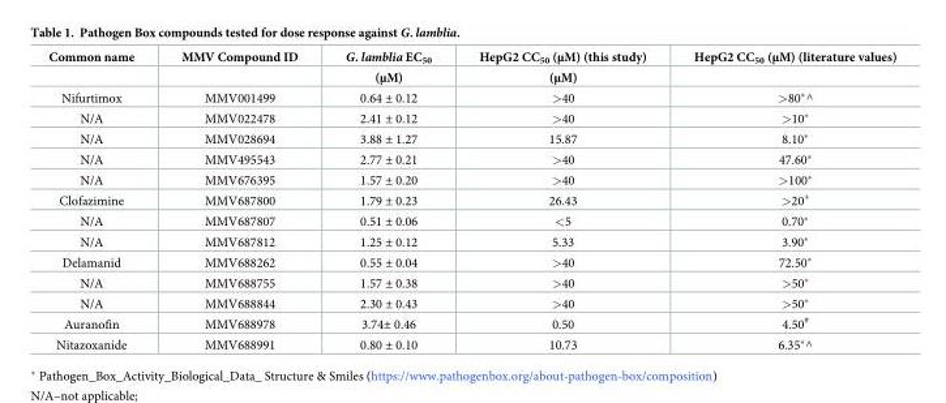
<table><thead><tr><td rowspan="2">Common name</td><td rowspan="2">MMV Compound ID</td><td rowspan="2">G. lamblia EC<sub>50</sub> (μM)</td><td rowspan="2">HepG2 CC<sub>50</sub> (μM) (this study) (μM)</td><td rowspan="2">HepG2 CC<sub>50</sub> (μM) (literature values)</td></tr><tr></tr></thead><tbody><tr><td>Nifurtimox</td><td>MMV001499</td><td>0.64 ± 0.12</td><td>&gt;40</td><td>&gt;80*^</td></tr><tr><td>N/A</td><td>MMV022478</td><td>2.41 ± 0.12</td><td>&gt;40</td><td>&gt;10*</td></tr><tr><td>N/A</td><td>MMV028694</td><td>3.88 ± 1.27</td><td>15.87</td><td>8.10*</td></tr><tr><td>N/A</td><td>MMV495543</td><td>2.77 ± 0.21</td><td>&gt;40</td><td>47.60*</td></tr><tr><td>N/A</td><td>MMV676395</td><td>1.57 ± 0.20</td><td>&gt;40</td><td>&gt;100*</td></tr><tr><td>Clofazimine</td><td>MMV687800</td><td>1.79 ± 0.23</td><td>26.43</td><td>&gt;20<sup>+</sup></td></tr><tr><td>N/A</td><td>MMV687807</td><td>0.51 ± 0.06</td><td>&lt;5</td><td>0.70*</td></tr><tr><td>N/A</td><td>MMV687812</td><td>1.25 ± 0.12</td><td>5.33</td><td>3.90*</td></tr><tr><td>Delamanid</td><td>MMV688262</td><td>0.55 ± 0.04</td><td>&gt;40</td><td>72.50*</td></tr><tr><td>N/A</td><td>MMV688755</td><td>1.57 ± 0.38</td><td>&gt;40</td><td>&gt;50*</td></tr><tr><td>N/A</td><td>MMV688844</td><td>2.30 ± 0.43</td><td>&gt;40</td><td>&gt;50*</td></tr><tr><td>Auranofin</td><td>MMV688978</td><td>3.74± 0.46</td><td>0.50</td><td>4.50<sup>#</sup></td></tr><tr><td>Nitazoxanide</td><td>MMV688991</td><td>0.80 ± 0.10</td><td>10.73</td><td>6.35*^</td></tr></tbody></table>